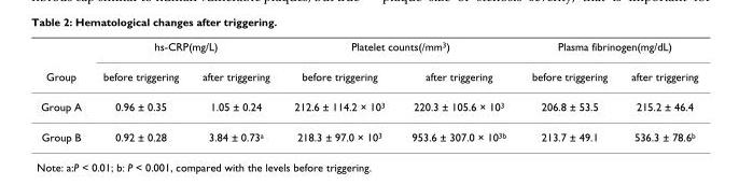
<table><thead><tr><td rowspan="2">Group</td><td colspan="2">hs-CRP(mg/L)</td><td colspan="2">Platelet counts(/mm<sup>3</sup>)</td><td colspan="2">Plasma fibrinogen(mg/dL)</td></tr><tr><td>before triggering</td><td>after triggering</td><td>before triggering</td><td>after triggering</td><td>before triggering</td><td>after triggering</td></tr></thead><tbody><tr><td>Group A</td><td>0.96 ± 0.35</td><td>1.05 ± 0.24</td><td>212.6 ± 114.2 × 10<sup>3</sup></td><td>220.3 ± 105.6 × 10<sup>3</sup></td><td>206.8 ± 53.5</td><td>215.2 ± 46.4</td></tr><tr><td>Group B</td><td>0.92 ± 0.28</td><td>3.84 ± 0.73<sup>a</sup></td><td>218.3 ± 97.0 × 10<sup>3</sup></td><td>953.6 ± 307.0 × 10<sup>3b</sup></td><td>213.7 ± 49.1</td><td>536.3 ± 78.6<sup>b</sup></td></tr></tbody></table>